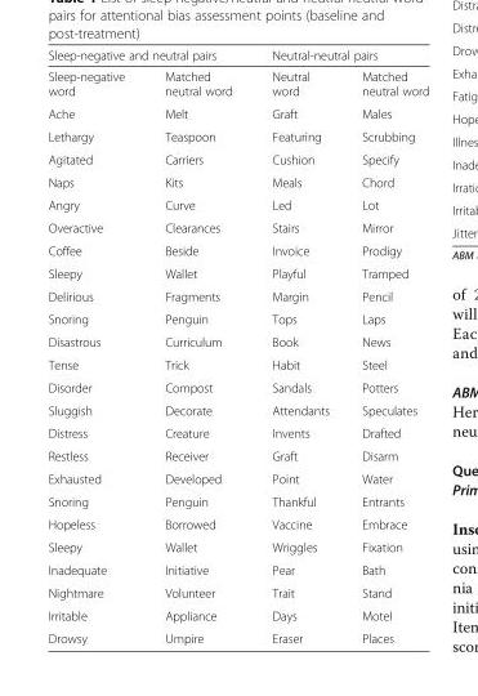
<table><thead><tr><td colspan="2">Sleep-negative and neutral pairs</td><td colspan="2">Neutral-neutral pairs</td></tr><tr><td>Sleep-negative word</td><td>Matched neutral word</td><td>Neutral word</td><td>Matched neutral word</td></tr></thead><tbody><tr><td>Ache</td><td>Melt</td><td>Graft</td><td>Males</td></tr><tr><td>Lethargy</td><td>Teaspoon</td><td>Featuring</td><td>Scrubbing</td></tr><tr><td>Agitated</td><td>Carriers</td><td>Cushion</td><td>Specify</td></tr><tr><td>Naps</td><td>Kits</td><td>Meals</td><td>Chord</td></tr><tr><td>Angry</td><td>Curve</td><td>Led</td><td>Lot</td></tr><tr><td>Overactive</td><td>Clearances</td><td>Stairs</td><td>Mirror</td></tr><tr><td>Coffee</td><td>Beside</td><td>Invoice</td><td>Prodigy</td></tr><tr><td>Sleepy</td><td>Wallet</td><td>Playful</td><td>Tramped</td></tr><tr><td>Delirious</td><td>Fragments</td><td>Margin</td><td>Pencil</td></tr><tr><td>Snoring</td><td>Penguin</td><td>Tops</td><td>Laps</td></tr><tr><td>Disastrous</td><td>Curriculum</td><td>Book</td><td>News</td></tr><tr><td>Tense</td><td>Trick</td><td>Habit</td><td>Steel</td></tr><tr><td>Disorder</td><td>Compost</td><td>Sandals</td><td>Potters</td></tr><tr><td>Sluggish</td><td>Decorate</td><td>Attendants</td><td>Speculates</td></tr><tr><td>Distress</td><td>Creature</td><td>Invents</td><td>Drafted</td></tr><tr><td>Restless</td><td>Receiver</td><td>Graft</td><td>Disarm</td></tr><tr><td>Exhausted</td><td>Developed</td><td>Point</td><td>Water</td></tr><tr><td>Snoring</td><td>Penguin</td><td>Thankful</td><td>Entrants</td></tr><tr><td>Hopeless</td><td>Borrowed</td><td>Vaccine</td><td>Embrace</td></tr><tr><td>Sleepy</td><td>Wallet</td><td>Wriggles</td><td>Fixation</td></tr><tr><td>Inadequate</td><td>Initiative</td><td>Pear</td><td>Bath</td></tr><tr><td>Nightmare</td><td>Volunteer</td><td>Trait</td><td>Stand</td></tr><tr><td>Irritable</td><td>Appliance</td><td>Days</td><td>Motel</td></tr><tr><td>Drowsy</td><td>Umpire</td><td>Eraser</td><td>Places</td></tr></tbody></table>